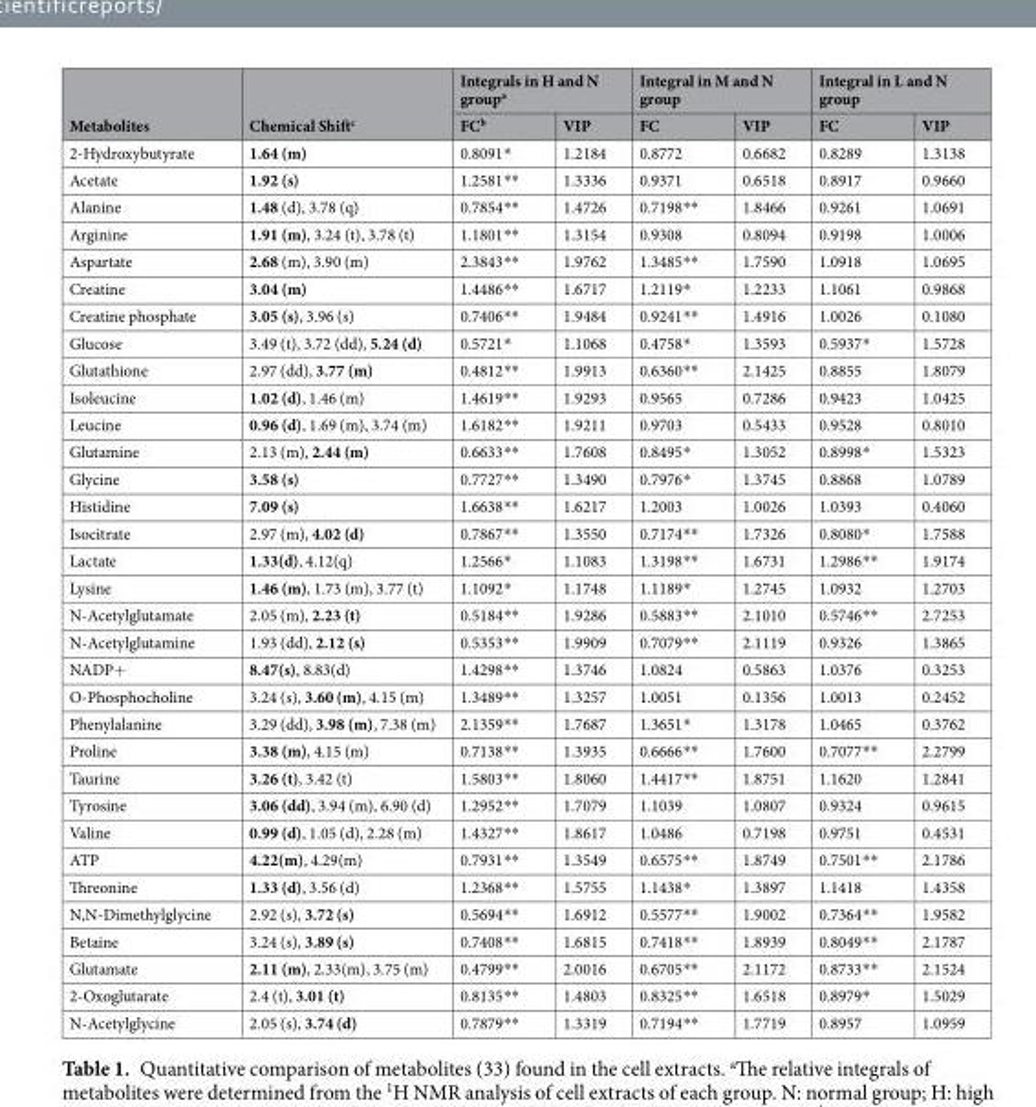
<table><thead><tr><td rowspan="2">Metabolites</td><td rowspan="2">Chemical Shift<sup>c</sup></td><td colspan="2">Integrals in H and N group<sup>a</sup></td><td colspan="2">Integral in M and N group</td><td colspan="2">Integral in L and N group</td></tr><tr><td>FC<sup>b</sup></td><td>VIP</td><td>FC</td><td>VIP</td><td>FC</td><td>VIP</td></tr></thead><tbody><tr><td>2-Hydroxybutyrate</td><td>1.64 (m)</td><td>0.8091*</td><td>1.2184</td><td>0.8772</td><td>0.6682</td><td>0.8289</td><td>1.3138</td></tr><tr><td>Acetate</td><td>1.92 (s)</td><td>1.2581**</td><td>1.3336</td><td>0.9371</td><td>0.6518</td><td>0.8917</td><td>0.9660</td></tr><tr><td>Alanine</td><td>1.48 (d), 3.78 (q)</td><td>0.7854**</td><td>1.4726</td><td>0.7198**</td><td>1.8466</td><td>0.9261</td><td>1.0691</td></tr><tr><td>Arginine</td><td>1.91 (m), 3.24 (t), 3.78 (t)</td><td>1.1801**</td><td>1.3154</td><td>0.9308</td><td>0.8094</td><td>0.9198</td><td>1.0006</td></tr><tr><td>Aspartate</td><td>2.68 (m), 3.90 (m)</td><td>2.3843**</td><td>1.9762</td><td>1.3485**</td><td>1.7590</td><td>1.0918</td><td>1.0695</td></tr><tr><td>Creatine</td><td>3.04 (m)</td><td>1.4486**</td><td>1.6717</td><td>1.2119*</td><td>1.2233</td><td>1.1061</td><td>0.9868</td></tr><tr><td>Creatine phosphate</td><td>3.05 (s), 3.96 (s)</td><td>0.7406**</td><td>1.9484</td><td>0.9241**</td><td>1.4916</td><td>1.0026</td><td>0.1080</td></tr><tr><td>Glucose</td><td>3.49 (t), 3.72 (dd), 5.24 (d)</td><td>0.5721*</td><td>1.1068</td><td>0.4758*</td><td>1.3593</td><td>0.5937*</td><td>1.5728</td></tr><tr><td>Glutathione</td><td>2.97 (dd), 3.77 (m)</td><td>0.4812**</td><td>1.9913</td><td>0.6360**</td><td>2.1425</td><td>0.8855</td><td>1.8079</td></tr><tr><td>Isoleucine</td><td>1.02 (d), 1.46 (m)</td><td>1.4619**</td><td>1.9293</td><td>0.9565</td><td>0.7286</td><td>0.9423</td><td>1.0425</td></tr><tr><td>Leucine</td><td>0.96 (d), 1.69 (m), 3.74 (m)</td><td>1.6182**</td><td>1.9211</td><td>0.9703</td><td>0.5433</td><td>0.9528</td><td>0.8010</td></tr><tr><td>Glutamine</td><td>2.13 (m), 2.44 (m)</td><td>0.6633**</td><td>1.7608</td><td>0.8495*</td><td>1.3052</td><td>0.8998*</td><td>1.5323</td></tr><tr><td>Glycine</td><td>3.58 (s)</td><td>0.7727**</td><td>1.3490</td><td>0.7976*</td><td>1.3745</td><td>0.8868</td><td>1.0789</td></tr><tr><td>Histidine</td><td>7.09 (s)</td><td>1.6638**</td><td>1.6217</td><td>1.2003</td><td>1.0026</td><td>1.0393</td><td>0.4060</td></tr><tr><td>Isocitrate</td><td>2.97 (m), 4.02 (d)</td><td>0.7867**</td><td>1.3550</td><td>0.7174**</td><td>1.7326</td><td>0.8080*</td><td>1.7588</td></tr><tr><td>Lactate</td><td>1.33(d), 4.12(q)</td><td>1.2566*</td><td>1.1083</td><td>1.3198**</td><td>1.6731</td><td>1.2986**</td><td>1.9174</td></tr><tr><td>Lysine</td><td>1.46 (m), 1.73 (m), 3.77 (t)</td><td>1.1092*</td><td>1.1748</td><td>1.1189*</td><td>1.2745</td><td>1.0932</td><td>1.2703</td></tr><tr><td>N-Acetylglutamate</td><td>2.05 (m), 2.23 (t)</td><td>0.5184**</td><td>1.9286</td><td>0.5883**</td><td>2.1010</td><td>0.5746**</td><td>2.7253</td></tr><tr><td>N-Acetylglutamine</td><td>1.93 (dd), 2.12 (s)</td><td>0.5353**</td><td>1.9909</td><td>0.7079**</td><td>2.1119</td><td>0.9326</td><td>1.3865</td></tr><tr><td>NADP+</td><td>8.47(s), 8.83(d)</td><td>1.4298**</td><td>1.3746</td><td>1.0824</td><td>0.5863</td><td>1.0376</td><td>0.3253</td></tr><tr><td>O-Phosphocholine</td><td>3.24 (s), 3.60 (m), 4.15 (m)</td><td>1.3489**</td><td>1.3257</td><td>1.0051</td><td>0.1356</td><td>1.0013</td><td>0.2452</td></tr><tr><td>Phenylalanine</td><td>3.29 (dd), 3.98 (m), 7.38 (m)</td><td>2.1359**</td><td>1.7687</td><td>1.3651*</td><td>1.3178</td><td>1.0465</td><td>0.3762</td></tr><tr><td>Proline</td><td>3.38 (m), 4.15 (m)</td><td>0.7138**</td><td>1.3935</td><td>0.6666**</td><td>1.7600</td><td>0.7077**</td><td>2.2799</td></tr><tr><td>Taurine</td><td>3.26 (t), 3.42 (t)</td><td>1.5803**</td><td>1.8060</td><td>1.4417**</td><td>1.8751</td><td>1.1620</td><td>1.2841</td></tr><tr><td>Tyrosine</td><td>3.06 (dd), 3.94 (m), 6.90 (d)</td><td>1.2952**</td><td>1.7079</td><td>1.1039</td><td>1.0807</td><td>0.9324</td><td>0.9615</td></tr><tr><td>Valine</td><td>0.99 (d), 1.05 (d), 2.28 (m)</td><td>1.4327**</td><td>1.8617</td><td>1.0486</td><td>0.7198</td><td>0.9751</td><td>0.4531</td></tr><tr><td>ATP</td><td>4.22(m), 4.29(m)</td><td>0.7931**</td><td>1.3549</td><td>0.6575**</td><td>1.8749</td><td>0.7501**</td><td>2.1786</td></tr><tr><td>Threonine</td><td>1.33 (d), 3.56 (d)</td><td>1.2368**</td><td>1.5755</td><td>1.1438*</td><td>1.3897</td><td>1.1418</td><td>1.4358</td></tr><tr><td>N,N-Dimethylglycine</td><td>2.92 (s), 3.72 (s)</td><td>0.5694**</td><td>1.6912</td><td>0.5577**</td><td>1.9002</td><td>0.7364**</td><td>1.9582</td></tr><tr><td>Betaine</td><td>3.24 (s), 3.89 (s)</td><td>0.7408**</td><td>1.6815</td><td>0.7418**</td><td>1.8939</td><td>0.8049**</td><td>2.1787</td></tr><tr><td>Glutamate</td><td>2.11 (m), 2.33(m), 3.75 (m)</td><td>0.4799**</td><td>2.0016</td><td>0.6705**</td><td>2.1172</td><td>0.8733**</td><td>2.1524</td></tr><tr><td>2-Oxoglutarate</td><td>2.4 (t), 3.01 (t)</td><td>0.8135**</td><td>1.4803</td><td>0.8325**</td><td>1.6518</td><td>0.8979*</td><td>1.5029</td></tr><tr><td>N-Acetylglycine</td><td>2.05 (s), 3.74 (d)</td><td>0.7879**</td><td>1.3319</td><td>0.7194**</td><td>1.7719</td><td>0.8957</td><td>1.0959</td></tr></tbody></table>